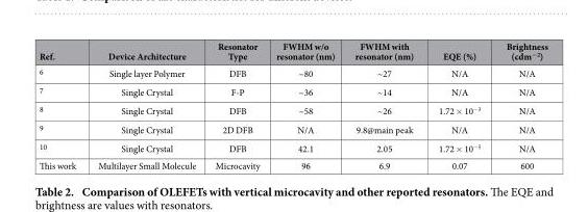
<table><thead><tr><td>Ref.</td><td>Device Architecture</td><td>Resonator Type</td><td>FWHM w/o resonator (nm)</td><td>FWHM with resonator (nm)</td><td>EQE (%)</td><td>Brightness (cdm<sup>−2</sup>)</td></tr></thead><tbody><tr><td>6</td><td>Single layer Polymer</td><td>DFB</td><td>~80</td><td>~27</td><td>N/A</td><td>N/A</td></tr><tr><td>7</td><td>Single Crystal</td><td>F-P</td><td>~36</td><td>~14</td><td>N/A</td><td>N/A</td></tr><tr><td>8</td><td>Single Crystal</td><td>DFB</td><td>~58</td><td>~26</td><td>1.72 × 10<sup>−3</sup></td><td>N/A</td></tr><tr><td>9</td><td>Single Crystal</td><td>2D DFB</td><td>N/A</td><td>9.8@main peak</td><td>N/A</td><td>N/A</td></tr><tr><td>10</td><td>Single Crystal</td><td>DFB</td><td>42.1</td><td>2.05</td><td>1.72 × 10<sup>−5</sup></td><td>N/A</td></tr><tr><td>This work</td><td>Multilayer Small Molecule</td><td>Microcavity</td><td>96</td><td>6.9</td><td>0.07</td><td>600</td></tr></tbody></table>